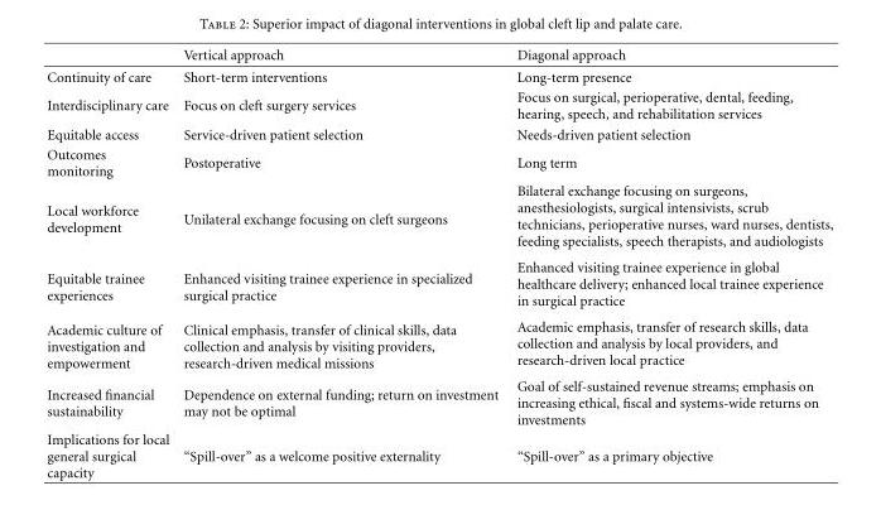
<table><thead><tr><td></td><td>Vertical approach</td><td>Diagonal approach</td></tr></thead><tbody><tr><td>Continuity of care</td><td>Short-term interventions</td><td>Long-term presence</td></tr><tr><td>Interdisciplinary care</td><td>Focus on cleft surgery services</td><td>Focus on surgical, perioperative, dental, feeding, hearing, speech, and rehabilitation services</td></tr><tr><td>Equitable access</td><td>Service-driven patient selection</td><td>Needs-driven patient selection</td></tr><tr><td>Outcomes monitoring</td><td>Postoperative</td><td>Long term</td></tr><tr><td>Local workforce development</td><td>Unilateral exchange focusing on cleft surgeons</td><td>Bilateral exchange focusing on surgeons, anesthesiologists, surgical intensivists, scrub technicians, perioperative nurses, ward nurses, dentists, feeding specialists, speech therapists, and audiologists</td></tr><tr><td>Equitable trainee experiences</td><td>Enhanced visiting trainee experience in specialized surgical practice</td><td>Enhanced visiting trainee experience in global healthcare delivery; enhanced local trainee experience in surgical practice</td></tr><tr><td>Academic culture of investigation and empowerment</td><td>Clinical emphasis, transfer of clinical skills, data collection and analysis by visiting providers, research-driven medical missions</td><td>Academic emphasis, transfer of research skills, data collection and analysis by local providers, and research-driven local practice</td></tr><tr><td>Increased financial sustainability</td><td>Dependence on external funding; return on investment may not be optimal</td><td>Goal of self-sustained revenue streams; emphasis on increasing ethical, fiscal and systems-wide returns on investments</td></tr><tr><td>Implications for local general surgical capacity</td><td>“Spill-over” as a welcome positive externality</td><td>“Spill-over” as a primary objective</td></tr></tbody></table>